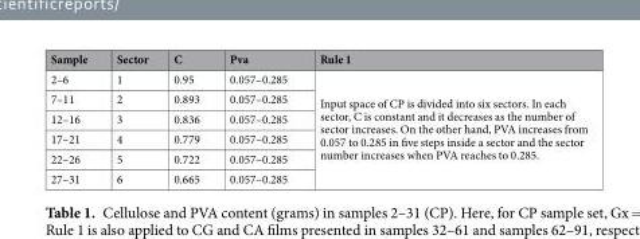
<table><thead><tr><td>Sample</td><td>Sector</td><td>C</td><td>Pva</td><td>Rule 1</td></tr></thead><tbody><tr><td>2–6</td><td>1</td><td>0.95</td><td>0.057–0.285</td><td rowspan="6">Input space of CP is divided into six sectors. In each sector, C is constant and it decreases as the number of sector increases. On the other hand, PVA increases from 0.057 to 0.285 in five steps inside a sector and the sector number increases when PVA reaches to 0.285.</td></tr><tr><td>7–11</td><td>2</td><td>0.893</td><td>0.057–0.285</td></tr><tr><td>12–16</td><td>3</td><td>0.836</td><td>0.057–0.285</td></tr><tr><td>17–21</td><td>4</td><td>0.779</td><td>0.057–0.285</td></tr><tr><td>22–26</td><td>5</td><td>0.722</td><td>0.057–0.285</td></tr><tr><td>27–31</td><td>6</td><td>0.665</td><td>0.057–0.285</td></tr></tbody></table>